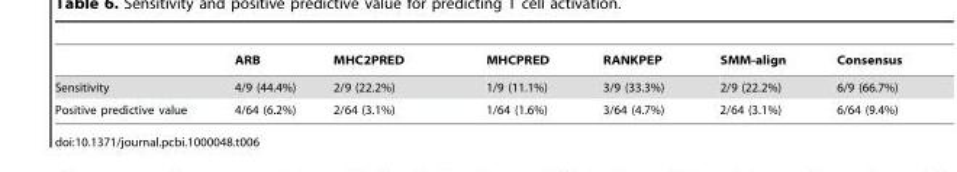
<table><thead><tr><td></td><td>ARB</td><td>MHC2PRED</td><td>MHCPRED</td><td>RANKPEP</td><td>SMM-align</td><td>Consensus</td></tr></thead><tbody><tr><td>Sensitivity</td><td>4/9 (44.4%)</td><td>2/9 (22.2%)</td><td>1/9 (11.1%)</td><td>3/9 (33.3%)</td><td>2/9 (22.2%)</td><td>6/9 (66.7%)</td></tr><tr><td>Positive predictive value</td><td>4/64 (6.2%)</td><td>2/64 (3.1%)</td><td>1/64 (1.6%)</td><td>3/64 (4.7%)</td><td>2/64 (3.1%)</td><td>6/64 (9.4%)</td></tr></tbody></table>